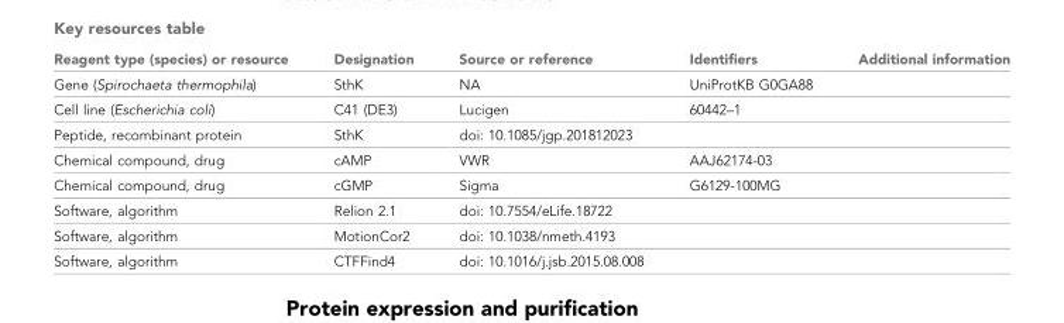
<table><thead><tr><td>Reagent type (species) or resource</td><td>Designation</td><td>Source or reference</td><td>Identifiers</td><td>Additional information</td></tr></thead><tbody><tr><td>Gene (Spirochaeta thermophila)</td><td>SthK</td><td>NA</td><td>UniProtKB G0GA88</td><td></td></tr><tr><td>Cell line (Escherichia coli)</td><td>C41 (DE3)</td><td>Lucigen</td><td>60442–1</td><td></td></tr><tr><td>Peptide, recombinant protein</td><td>SthK</td><td>doi: 10.1085/jgp.201812023</td><td></td><td></td></tr><tr><td>Chemical compound, drug</td><td>cAMP</td><td>VWR</td><td>AAJ62174-03</td><td></td></tr><tr><td>Chemical compound, drug</td><td>cGMP</td><td>Sigma</td><td>G6129-100MG</td><td></td></tr><tr><td>Software, algorithm</td><td>Relion 2.1</td><td>doi: 10.7554/eLife.18722</td><td></td><td></td></tr><tr><td>Software, algorithm</td><td>MotionCor2</td><td>doi: 10.1038/nmeth.4193</td><td></td><td></td></tr><tr><td>Software, algorithm</td><td>CTFFind4</td><td>doi: 10.1016/j.jsb.2015.08.008</td><td></td><td></td></tr></tbody></table>